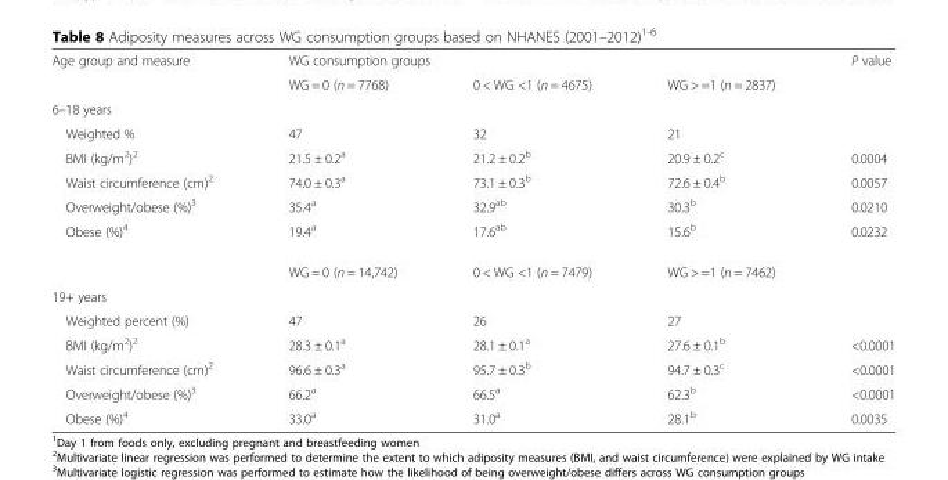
<table><tbody><tr><td rowspan="2">Age group and measure</td><td colspan="3">WG consumption groups</td><td>P value</td></tr><tr><td>WG = 0 (n = 7768)</td><td>0 &lt; WG &lt;1 (n = 4675)</td><td>WG &gt; =1 (n = 2837)</td><td></td></tr><tr><td colspan="5">6–18 years</td></tr><tr><td>Weighted %</td><td>47</td><td>32</td><td>21</td><td></td></tr><tr><td>BMI (kg/m<sup>2</sup>)<sup>2</sup></td><td>21.5 ± 0.2<sup>a</sup></td><td>21.2 ± 0.2<sup>b</sup></td><td>20.9 ± 0.2<sup>c</sup></td><td>0.0004</td></tr><tr><td>Waist circumference (cm)<sup>2</sup></td><td>74.0 ± 0.3<sup>a</sup></td><td>73.1 ± 0.3<sup>b</sup></td><td>72.6 ± 0.4<sup>b</sup></td><td>0.0057</td></tr><tr><td>Overweight/obese (%)<sup>3</sup></td><td>35.4<sup>a</sup></td><td>32.9<sup>ab</sup></td><td>30.3<sup>b</sup></td><td>0.0210</td></tr><tr><td rowspan="2">Obese (%)<sup>4</sup></td><td>19.4<sup>a</sup></td><td>17.6<sup>ab</sup></td><td>15.6<sup>b</sup></td><td>0.0232</td></tr><tr><td>WG = 0 (n = 14,742)</td><td>0 &lt; WG &lt;1 (n = 7479)</td><td>WG &gt; =1 (n = 7462)</td><td></td></tr><tr><td colspan="5">19+ years</td></tr><tr><td>Weighted percent (%)</td><td>47</td><td>26</td><td>27</td><td></td></tr><tr><td>BMI (kg/m<sup>2</sup>)<sup>2</sup></td><td>28.3 ± 0.1<sup>a</sup></td><td>28.1 ± 0.1<sup>a</sup></td><td>27.6 ± 0.1<sup>b</sup></td><td>&lt;0.0001</td></tr><tr><td>Waist circumference (cm)<sup>2</sup></td><td>96.6 ± 0.3<sup>a</sup></td><td>95.7 ± 0.3<sup>b</sup></td><td>94.7 ± 0.3<sup>c</sup></td><td>&lt;0.0001</td></tr><tr><td>Overweight/obese (%)<sup>3</sup></td><td>66.2<sup>a</sup></td><td>66.5<sup>a</sup></td><td>62.3<sup>b</sup></td><td>&lt;0.0001</td></tr><tr><td>Obese (%)<sup>4</sup></td><td>33.0<sup>a</sup></td><td>31.0<sup>a</sup></td><td>28.1<sup>b</sup></td><td>0.0035</td></tr></tbody></table>